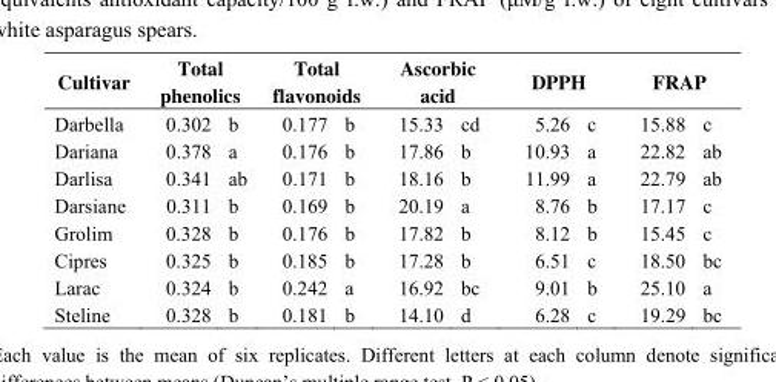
<table><thead><tr><td rowspan="2">Cultivar Darbella</td><td colspan="2">Total phenolics</td><td colspan="2">Total flavonoids</td><td colspan="2">Ascorbic acid</td><td colspan="2">DPPH</td><td colspan="2">FRAP</td></tr><tr><td>0.302</td><td>b</td><td>0.177</td><td>b</td><td>15.33</td><td>cd</td><td>5.26</td><td>c</td><td>15.88</td><td>c</td></tr></thead><tbody><tr><td>Dariana</td><td>0.378</td><td>a</td><td>0.176</td><td>b</td><td>17.86</td><td>b</td><td>10.93</td><td>a</td><td>22.82</td><td>ab</td></tr><tr><td>Darlisa</td><td>0.341</td><td>ab</td><td>0.171</td><td>b</td><td>18.16</td><td>b</td><td>11.99</td><td>a</td><td>22.79</td><td>ab</td></tr><tr><td>Darsiane</td><td>0.311</td><td>b</td><td>0.169</td><td>b</td><td>20.19</td><td>a</td><td>8.76</td><td>b</td><td>17.17</td><td>c</td></tr><tr><td>Grolim</td><td>0.328</td><td>b</td><td>0.176</td><td>b</td><td>17.82</td><td>b</td><td>8.12</td><td>b</td><td>15.45</td><td>c</td></tr><tr><td>Cipres</td><td>0.325</td><td>b</td><td>0.185</td><td>b</td><td>17.28</td><td>b</td><td>6.51</td><td>c</td><td>18.50</td><td>bc</td></tr><tr><td>Larac</td><td>0.324</td><td>b</td><td>0.242</td><td>a</td><td>16.92</td><td>bc</td><td>9.01</td><td>b</td><td>25.10</td><td>a</td></tr><tr><td>Steline</td><td>0.328</td><td>b</td><td>0.181</td><td>b</td><td>14.10</td><td>d</td><td>6.28</td><td>c</td><td>19.29</td><td>bc</td></tr></tbody></table>